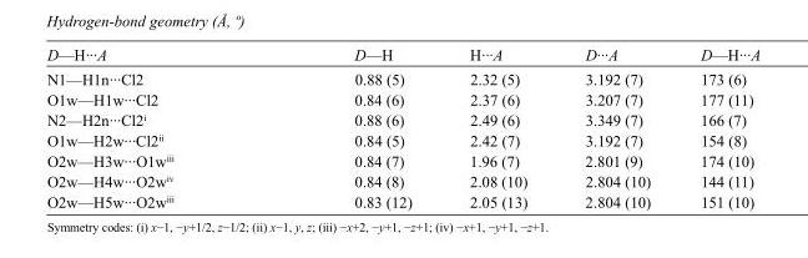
<table><tbody><tr><td>D—H···A</td><td>D—H</td><td>H···A</td><td>D···A</td><td>D—H···A</td></tr><tr><td>N1—H1n···Cl2</td><td>0.88 (5)</td><td>2.32 (5)</td><td>3.192 (7)</td><td>173 (6)</td></tr><tr><td>O1w—H1w···Cl2</td><td>0.84 (6)</td><td>2.37 (6)</td><td>3.207 (7)</td><td>177 (11)</td></tr><tr><td>N2—H2n···Cl2<sup>i</sup></td><td>0.88 (6)</td><td>2.49 (6)</td><td>3.349 (7)</td><td>166 (7)</td></tr><tr><td>O1w—H2w···Cl2<sup>ii</sup></td><td>0.84 (5)</td><td>2.42 (7)</td><td>3.192 (7)</td><td>154 (8)</td></tr><tr><td>O2w—H3w···O1w<sup>iii</sup></td><td>0.84 (7)</td><td>1.96 (7)</td><td>2.801 (9)</td><td>174 (10)</td></tr><tr><td>O2w—H4w···O2w<sup>iv</sup></td><td>0.84 (8)</td><td>2.08 (10)</td><td>2.804 (10)</td><td>144 (11)</td></tr><tr><td>O2w—H5w···O2w<sup>iii</sup></td><td>0.83 (12)</td><td>2.05 (13)</td><td>2.804 (10)</td><td>151 (10)</td></tr></tbody></table>